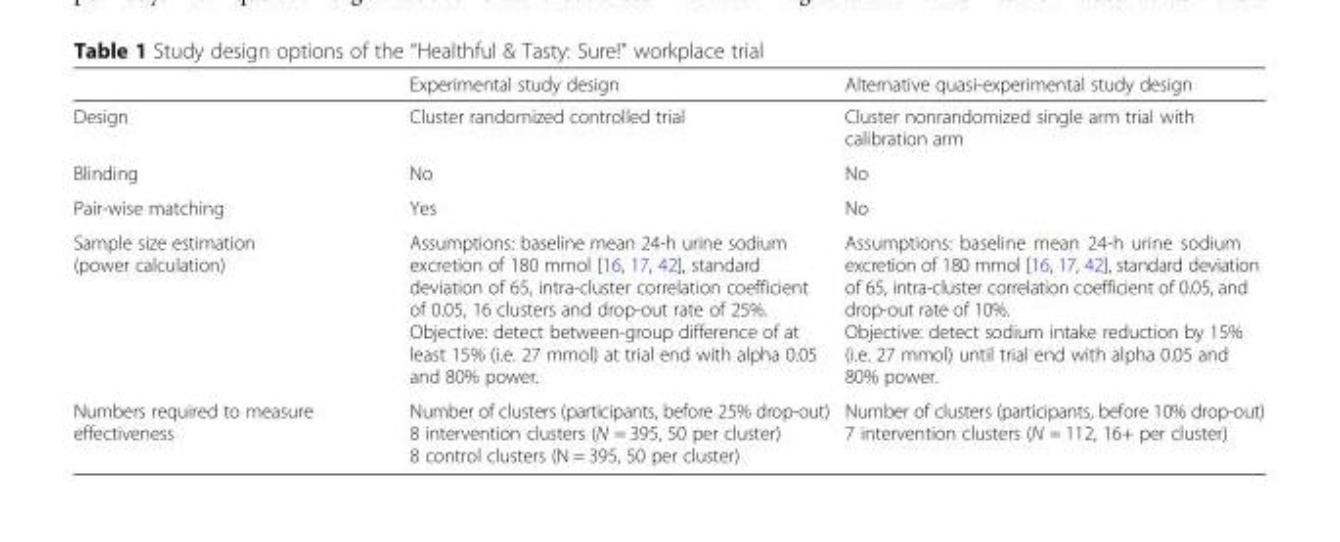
<table><thead><tr><td></td><td>Experimental study design</td><td>Alternative quasi-experimental study design</td></tr></thead><tbody><tr><td>Design</td><td>Cluster randomized controlled trial</td><td>Cluster nonrandomized single arm trial with calibration arm</td></tr><tr><td>Blinding</td><td>No</td><td>No</td></tr><tr><td>Pair-wise matching</td><td>Yes</td><td>No</td></tr><tr><td>Sample size estimation (power calculation)</td><td>Assumptions: baseline mean 24-h urine sodium excretion of 180 mmol [16, 17, 42], standard deviation of 65, intra-cluster correlation coefficient of 0.05, 16 clusters and drop-out rate of 25%. Objective: detect between-group difference of at least 15% (i.e. 27 mmol) at trial end with alpha 0.05 and 80% power.</td><td>Assumptions: baseline mean 24-h urine sodium excretion of 180 mmol [16, 17, 42], standard deviation of 65, intra-cluster correlation coefficient of 0.05, and drop-out rate of 10%. Objective: detect sodium intake reduction by 15% (i.e. 27 mmol) until trial end with alpha 0.05 and 80% power.</td></tr><tr><td>Numbers required to measure effectiveness</td><td>Number of clusters (participants, before 25% drop-out) 8 intervention clusters (N = 395, 50 per cluster) 8 control clusters (N = 395, 50 per cluster)</td><td>Number of clusters (participants, before 10% drop-out) 7 intervention clusters (N = 112, 16+ per cluster)</td></tr></tbody></table>